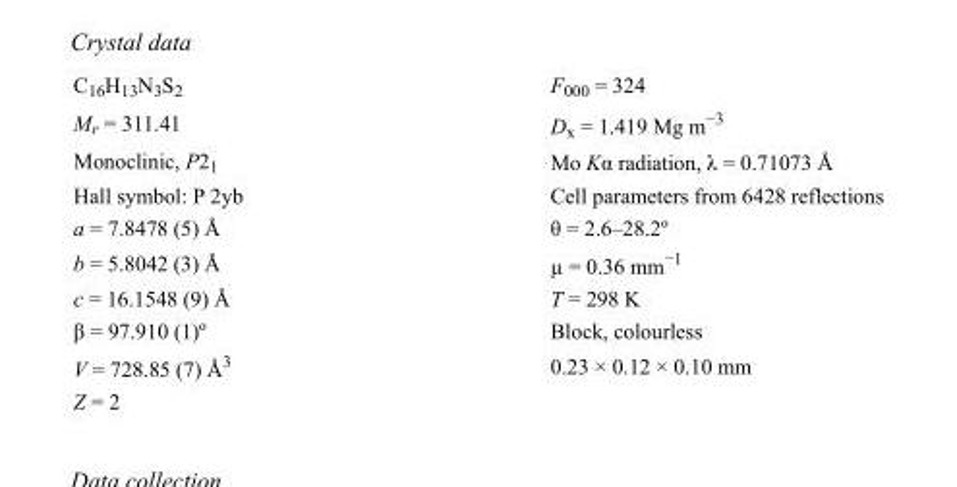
<table><tbody><tr><td>C<sub>16</sub>H<sub>13</sub>N<sub>3</sub>S<sub>2</sub></td><td>F000 = 324</td></tr><tr><td>M<sub>r</sub> = 311.41</td><td>D<sub>x</sub> = 1.419 Mg m<sup>−3</sup></td></tr><tr><td>Monoclinic, P2<sub>1</sub></td><td>Mo Kα radiation, λ = 0.71073 Å</td></tr><tr><td>Hall symbol: P 2yb</td><td>Cell parameters from 6428 reflections</td></tr><tr><td>a = 7.8478 (5) Å</td><td>θ = 2.6–28.2º</td></tr><tr><td>b = 5.8042 (3) Å</td><td>µ = 0.36 mm<sup>−1</sup></td></tr><tr><td>c = 16.1548 (9) Å</td><td>T = 298 K</td></tr><tr><td>β = 97.910 (1)º</td><td>Block, colourless</td></tr><tr><td>V = 728.85 (7) Å<sup>3</sup></td><td>0.23 × 0.12 × 0.10 mm</td></tr><tr><td>Z = 2</td><td></td></tr></tbody></table>